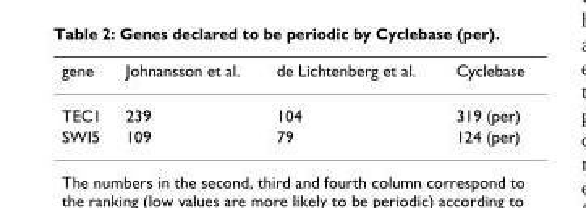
<table><thead><tr><td>gene</td><td>Johnansson et al.</td><td>de Lichtenberg et al.</td><td>Cyclebase</td></tr></thead><tbody><tr><td>TEC1</td><td>239</td><td>104</td><td>319 (per)</td></tr><tr><td>SWI5</td><td>109</td><td>79</td><td>124 (per)</td></tr></tbody></table>